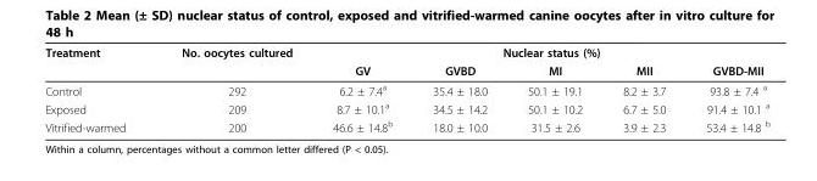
<table><thead><tr><td rowspan="2">Treatment</td><td rowspan="2">No. oocytes cultured</td><td colspan="5">Nuclear status (%)</td></tr><tr><td>GV</td><td>GVBD</td><td>MI</td><td>MII</td><td>GVBD-MII</td></tr></thead><tbody><tr><td>Control</td><td>292</td><td>6.2 ± 7.4<sup>a</sup></td><td>35.4 ± 18.0</td><td>50.1 ± 19.1</td><td>8.2 ± 3.7</td><td>93.8 ± 7.4 <sup>a</sup></td></tr><tr><td>Exposed</td><td>209</td><td>8.7 ± 10.1<sup>a</sup></td><td>34.5 ± 14.2</td><td>50.1 ± 10.2</td><td>6.7 ± 5.0</td><td>91.4 ± 10.1 <sup>a</sup></td></tr><tr><td>Vitrified-warmed</td><td>200</td><td>46.6 ± 14.8<sup>b</sup></td><td>18.0 ± 10.0</td><td>31.5 ± 2.6</td><td>3.9 ± 2.3</td><td>53.4 ± 14.8 <sup>b</sup></td></tr></tbody></table>